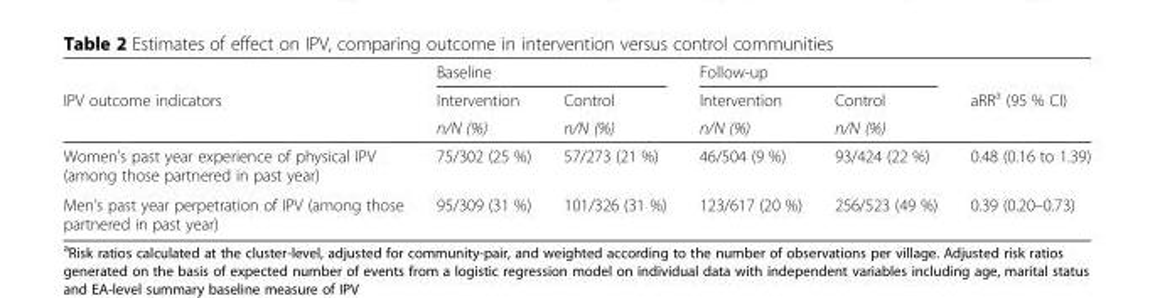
<table><thead><tr><td rowspan="3">IPV outcome indicators</td><td colspan="2">Baseline</td><td colspan="2">Follow-up</td><td rowspan="3">aRR<sup>a</sup> (95 % CI)</td></tr><tr><td rowspan="2">Intervention n/N (%)</td><td rowspan="2">Control n/N (%)</td><td rowspan="2">Intervention n/N (%)</td><td rowspan="2">Control n/N (%)</td></tr><tr></tr></thead><tbody><tr><td>Women’s past year experience of physical IPV (among those partnered in past year)</td><td>75/302 (25 %)</td><td>57/273 (21 %)</td><td>46/504 (9 %)</td><td>93/424 (22 %)</td><td>0.48 (0.16 to 1.39)</td></tr><tr><td>Men’s past year perpetration of IPV (among those partnered in past year)</td><td>95/309 (31 %)</td><td>101/326 (31 %)</td><td>123/617 (20 %)</td><td>256/523 (49 %)</td><td>0.39 (0.20–0.73)</td></tr></tbody></table>